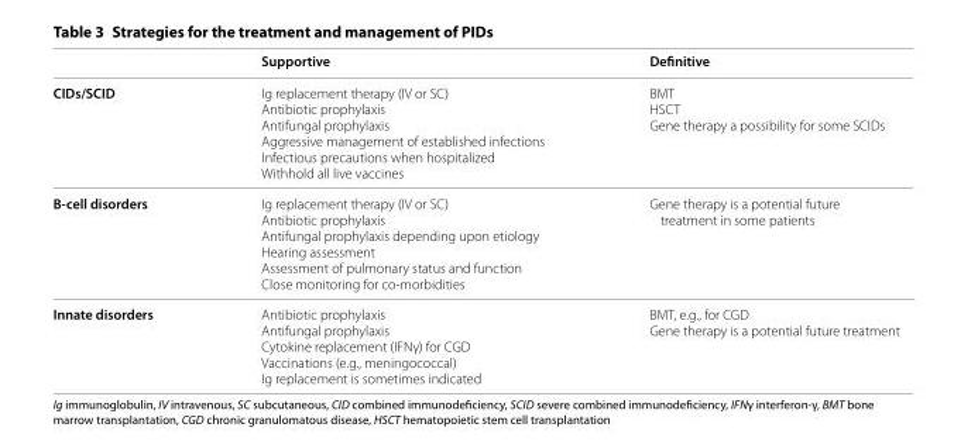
<table><thead><tr><td></td><td>Supportive</td><td>Definitive</td></tr></thead><tbody><tr><td>CIDs/SCID</td><td>Ig replacement therapy (IV or SC) Antibiotic prophylaxis Antifungal prophylaxis Aggressive management of established infections Infectious precautions when hospitalized Withhold all live vaccines</td><td>BMT HSCT Gene therapy a possibility for some SCIDs</td></tr><tr><td>B‑cell disorders</td><td>Ig replacement therapy (IV or SC) Antibiotic prophylaxis Antifungal prophylaxis depending upon etiology Hearing assessment Assessment of pulmonary status and function Close monitoring for co-morbidities</td><td>Gene therapy is a potential future treatment in some patients</td></tr><tr><td>Innate disorders</td><td>Antibiotic prophylaxis Antifungal prophylaxis Cytokine replacement (IFNγ) for CGD Vaccinations (e.g., meningococcal) Ig replacement is sometimes indicated</td><td>BMT, e.g., for CGD Gene therapy is a potential future treatment</td></tr></tbody></table>